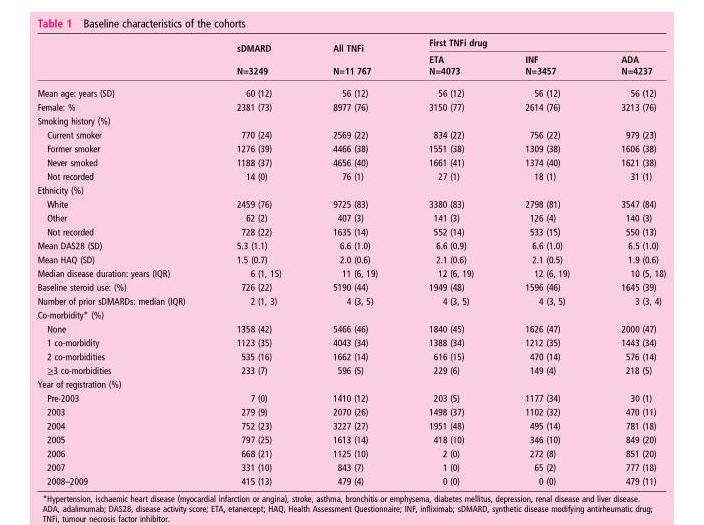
<table><thead><tr><td rowspan="3"></td><td rowspan="3">sDMARD N=3249</td><td rowspan="3">All TNFi N=11 767</td><td colspan="3">First TNFi drug</td></tr><tr><td rowspan="2">ETA N=4073</td><td rowspan="2">INF N=3457</td><td rowspan="2">ADA N=4237</td></tr><tr></tr></thead><tbody><tr><td>Mean age: years (SD)</td><td>60 (12)</td><td>56 (12)</td><td>56 (12)</td><td>56 (12)</td><td>56 (12)</td></tr><tr><td>Female: %</td><td>2381 (73)</td><td>8977 (76)</td><td>3150 (77)</td><td>2614 (76)</td><td>3213 (76)</td></tr><tr><td colspan="6">Smoking history (%)</td></tr><tr><td>Current smoker</td><td>770 (24)</td><td>2569 (22)</td><td>834 (22)</td><td>756 (22)</td><td>979 (23)</td></tr><tr><td>Former smoker</td><td>1276 (39)</td><td>4466 (38)</td><td>1551 (38)</td><td>1309 (38)</td><td>1606 (38)</td></tr><tr><td>Never smoked</td><td>1188 (37)</td><td>4656 (40)</td><td>1661 (41)</td><td>1374 (40)</td><td>1621 (38)</td></tr><tr><td>Not recorded</td><td>14 (0)</td><td>76 (1)</td><td>27 (1)</td><td>18 (1)</td><td>31 (1)</td></tr><tr><td colspan="6">Ethnicity (%)</td></tr><tr><td>White</td><td>2459 (76)</td><td>9725 (83)</td><td>3380 (83)</td><td>2798 (81)</td><td>3547 (84)</td></tr><tr><td>Other</td><td>62 (2)</td><td>407 (3)</td><td>141 (3)</td><td>126 (4)</td><td>140 (3)</td></tr><tr><td>Not recorded</td><td>728 (22)</td><td>1635 (14)</td><td>552 (14)</td><td>533 (15)</td><td>550 (13)</td></tr><tr><td>Mean DAS28 (SD)</td><td>5.3 (1.1)</td><td>6.6 (1.0)</td><td>6.6 (0.9)</td><td>6.6 (1.0)</td><td>6.5 (1.0)</td></tr><tr><td>Mean HAQ (SD)</td><td>1.5 (0.7)</td><td>2.0 (0.6)</td><td>2.1 (0.6)</td><td>2.1 (0.5)</td><td>1.9 (0.6)</td></tr><tr><td>Median disease duration: years (IQR)</td><td>6 (1, 15)</td><td>11 (6, 19)</td><td>12 (6, 19)</td><td>12 (6, 19)</td><td>10 (5, 18)</td></tr><tr><td>Baseline steroid use: (%)</td><td>726 (22)</td><td>5190 (44)</td><td>1949 (48)</td><td>1596 (46)</td><td>1645 (39)</td></tr><tr><td>Number of prior sDMARDs: median (IQR)</td><td>2 (1, 3)</td><td>4 (3, 5)</td><td>4 (3, 5)</td><td>4 (3, 5)</td><td>3 (3, 4)</td></tr><tr><td colspan="6">Co-morbidity* (%)</td></tr><tr><td>None</td><td>1358 (42)</td><td>5466 (46)</td><td>1840 (45)</td><td>1626 (47)</td><td>2000 (47)</td></tr><tr><td>1 co-morbidity</td><td>1123 (35)</td><td>4043 (34)</td><td>1388 (34)</td><td>1212 (35)</td><td>1443 (34)</td></tr><tr><td>2 co-morbidities</td><td>535 (16)</td><td>1662 (14)</td><td>616 (15)</td><td>470 (14)</td><td>576 (14)</td></tr><tr><td>≥3 co-morbidities</td><td>233 (7)</td><td>596 (5)</td><td>229 (6)</td><td>149 (4)</td><td>218 (5)</td></tr><tr><td colspan="6">Year of registration (%)</td></tr><tr><td>Pre-2003</td><td>7 (0)</td><td>1410 (12)</td><td>203 (5)</td><td>1177 (34)</td><td>30 (1)</td></tr><tr><td>2003</td><td>279 (9)</td><td>2070 (26)</td><td>1498 (37)</td><td>1102 (32)</td><td>470 (11)</td></tr><tr><td>2004</td><td>752 (23)</td><td>3227 (27)</td><td>1951 (48)</td><td>495 (14)</td><td>781 (18)</td></tr><tr><td>2005</td><td>797 (25)</td><td>1613 (14)</td><td>418 (10)</td><td>346 (10)</td><td>849 (20)</td></tr><tr><td>2006</td><td>668 (21)</td><td>1125 (10)</td><td>2 (0)</td><td>272 (8)</td><td>851 (20)</td></tr><tr><td>2007</td><td>331 (10)</td><td>843 (7)</td><td>1 (0)</td><td>65 (2)</td><td>777 (18)</td></tr><tr><td>2008–2009</td><td>415 (13)</td><td>479 (4)</td><td>0 (0)</td><td>0 (0)</td><td>479 (11)</td></tr></tbody></table>